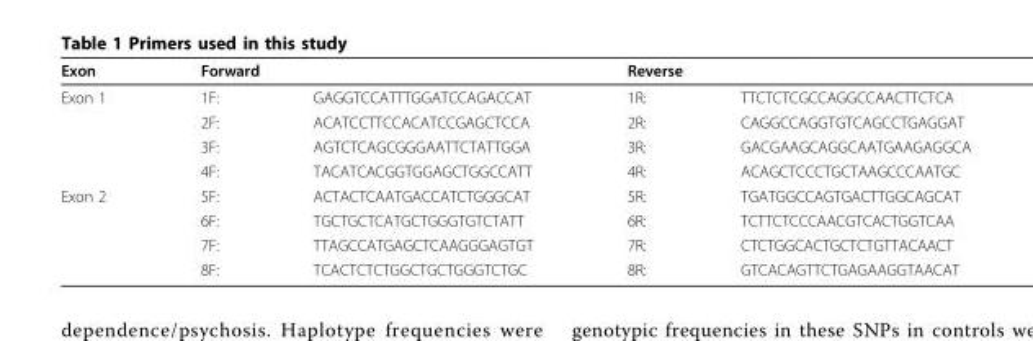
<table><thead><tr><td rowspan="2">Exon Exon 1</td><td colspan="2">Forward</td><td colspan="2">Reverse</td></tr><tr><td>1F:</td><td>GAGGTCCATTTGGATCCAGACCAT</td><td>1R:</td><td>TTCTCTCGCCAGGCCAACTTCTCA</td></tr></thead><tbody><tr><td></td><td>2F:</td><td>ACATCCTTCCACATCCGAGCTCCA</td><td>2R:</td><td>CAGGCCAGGTGTCAGCCTGAGGAT</td></tr><tr><td></td><td>3F:</td><td>AGTCTCAGCGGGAATTCTATTGGA</td><td>3R:</td><td>GACGAAGCAGGCAATGAAGAGGCA</td></tr><tr><td></td><td>4F:</td><td>TACATCACGGTGGAGCTGGCCATT</td><td>4R:</td><td>ACAGCTCCCTGCTAAGCCCAATGC</td></tr><tr><td rowspan="4">Exon 2</td><td>5F:</td><td>ACTACTCAATGACCATCTGGGCAT</td><td>5R:</td><td>TGATGGCCAGTGACTTGGCAGCAT</td></tr><tr><td>6F:</td><td>TGCTGCTCATGCTGGGTGTCTATT</td><td>6R:</td><td>TCTTCTCCCAACGTCACTGGTCAA</td></tr><tr><td>7F:</td><td>TTAGCCATGAGCTCAAGGGAGTGT</td><td>7R:</td><td>CTCTGGCACTGCTCTGTTACAACT</td></tr><tr><td>8F:</td><td>TCACTCTCTGGCTGCTGGGTCTGC</td><td>8R:</td><td>GTCACAGTTCTGAGAAGGTAACAT</td></tr></tbody></table>